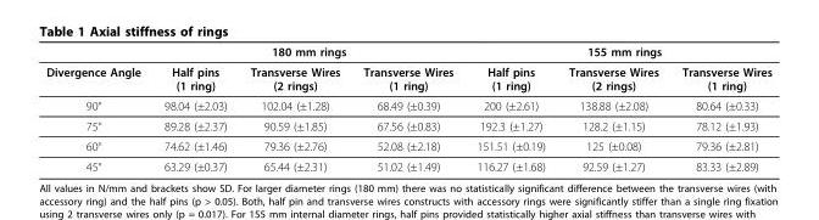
<table><thead><tr><td rowspan="2">Divergence Angle</td><td colspan="3">180 mm rings</td><td colspan="3">155 mm rings</td></tr><tr><td>Half pins (1 ring)</td><td>Transverse Wires (2 rings)</td><td>Transverse Wires (1 ring)</td><td>Half pins (1 ring)</td><td>Transverse Wires (2 rings)</td><td>Transverse Wires (1 ring)</td></tr></thead><tbody><tr><td>90°</td><td>98.04 (±2.03)</td><td>102.04 (±1.28)</td><td>68.49 (±0.39)</td><td>200 (±2.61)</td><td>138.88 (±2.08)</td><td>80.64 (±0.33)</td></tr><tr><td>75°</td><td>89.28 (±2.37)</td><td>90.59 (±1.85)</td><td>67.56 (±0.83)</td><td>192.3 (±1.27)</td><td>128.2 (±1.15)</td><td>78.12 (±1.93)</td></tr><tr><td>60°</td><td>74.62 (±1.46)</td><td>79.36 (±2.76)</td><td>52.08 (±2.18)</td><td>151.51 (±0.19)</td><td>125 (±0.08)</td><td>79.36 (±2.81)</td></tr><tr><td>45°</td><td>63.29 (±0.37)</td><td>65.44 (±2.31)</td><td>51.02 (±1.49)</td><td>116.27 (±1.68)</td><td>92.59 (±1.27)</td><td>83.33 (±2.89)</td></tr></tbody></table>